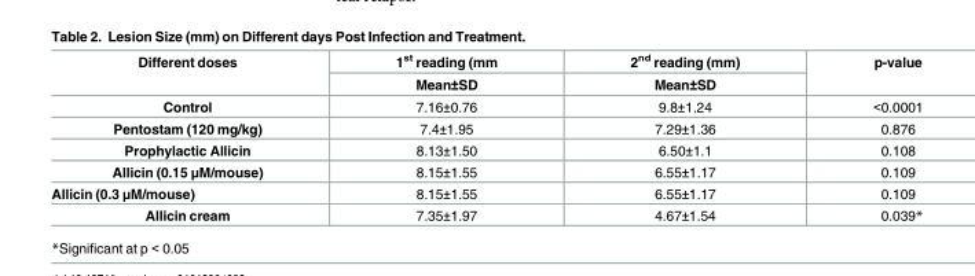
<table><thead><tr><td rowspan="2">Different doses</td><td rowspan="2">1<sup>st</sup> reading (mm Mean±SD</td><td rowspan="2">2<sup>nd</sup> reading (mm) Mean±SD</td><td rowspan="2">p-value</td></tr><tr></tr></thead><tbody><tr><td>Control</td><td>7.16±0.76</td><td>9.8±1.24</td><td>&lt;0.0001</td></tr><tr><td>Pentostam (120 mg/kg)</td><td>7.4±1.95</td><td>7.29±1.36</td><td>0.876</td></tr><tr><td>Prophylactic Allicin</td><td>8.13±1.50</td><td>6.50±1.1</td><td>0.108</td></tr><tr><td>Allicin (0.15 μM/mouse)</td><td>8.15±1.55</td><td>6.55±1.17</td><td>0.109</td></tr><tr><td>Allicin (0.3 μM/mouse)</td><td>8.15±1.55</td><td>6.55±1.17</td><td>0.109</td></tr><tr><td>Allicin cream</td><td>7.35±1.97</td><td>4.67±1.54</td><td>0.039*</td></tr></tbody></table>